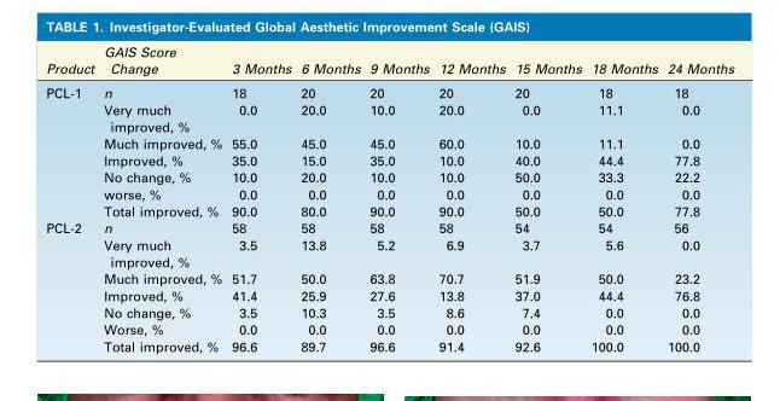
<table><thead><tr><td>Product</td><td>GAIS Score Change</td><td>3 Months</td><td>6 Months</td><td>9 Months</td><td>12 Months</td><td>15 Months</td><td>18 Months</td><td>24 Months</td></tr></thead><tbody><tr><td rowspan="7">PCL-1</td><td>n</td><td>18</td><td>20</td><td>20</td><td>20</td><td>20</td><td>18</td><td>18</td></tr><tr><td>Very much improved, %</td><td>0.0</td><td>20.0</td><td>10.0</td><td>20.0</td><td>0.0</td><td>11.1</td><td>0.0</td></tr><tr><td>Much improved, %</td><td>55.0</td><td>45.0</td><td>45.0</td><td>60.0</td><td>10.0</td><td>11.1</td><td>0.0</td></tr><tr><td>Improved, %</td><td>35.0</td><td>15.0</td><td>35.0</td><td>10.0</td><td>40.0</td><td>44.4</td><td>77.8</td></tr><tr><td>No change, %</td><td>10.0</td><td>20.0</td><td>10.0</td><td>10.0</td><td>50.0</td><td>33.3</td><td>22.2</td></tr><tr><td>worse, %</td><td>0.0</td><td>0.0</td><td>0.0</td><td>0.0</td><td>0.0</td><td>0.0</td><td>0.0</td></tr><tr><td>Total improved, %</td><td>90.0</td><td>80.0</td><td>90.0</td><td>90.0</td><td>50.0</td><td>50.0</td><td>77.8</td></tr><tr><td rowspan="7">PCL-2</td><td>n</td><td>58</td><td>58</td><td>58</td><td>58</td><td>54</td><td>54</td><td>56</td></tr><tr><td>Very much improved, %</td><td>3.5</td><td>13.8</td><td>5.2</td><td>6.9</td><td>3.7</td><td>5.6</td><td>0.0</td></tr><tr><td>Much improved, %</td><td>51.7</td><td>50.0</td><td>63.8</td><td>70.7</td><td>51.9</td><td>50.0</td><td>23.2</td></tr><tr><td>Improved, %</td><td>41.4</td><td>25.9</td><td>27.6</td><td>13.8</td><td>37.0</td><td>44.4</td><td>76.8</td></tr><tr><td>No change, %</td><td>3.5</td><td>10.3</td><td>3.5</td><td>8.6</td><td>7.4</td><td>0.0</td><td>0.0</td></tr><tr><td>Worse, %</td><td>0.0</td><td>0.0</td><td>0.0</td><td>0.0</td><td>0.0</td><td>0.0</td><td>0.0</td></tr><tr><td>Total improved, %</td><td>96.6</td><td>89.7</td><td>96.6</td><td>91.4</td><td>92.6</td><td>100.0</td><td>100.0</td></tr></tbody></table>